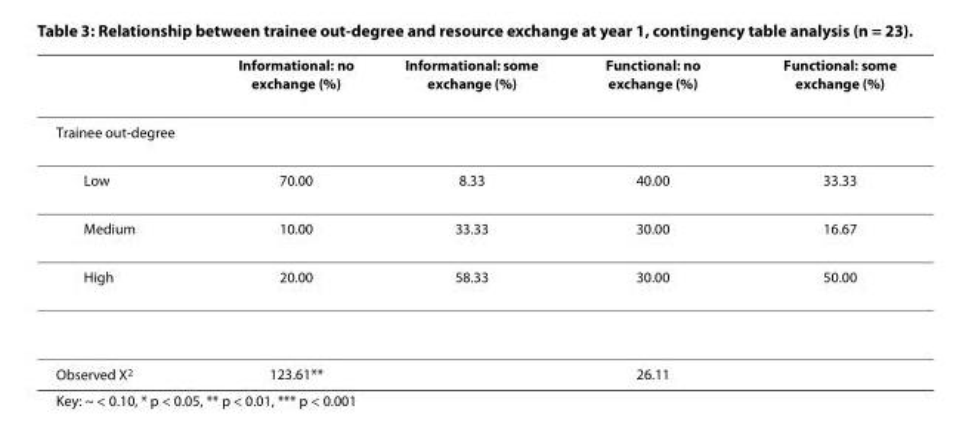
<table><thead><tr><td></td><td>Informational: no exchange (%)</td><td>Informational: some exchange (%)</td><td>Functional: no exchange (%)</td><td>Functional: some exchange (%)</td></tr></thead><tbody><tr><td colspan="5">Trainee out-degree</td></tr><tr><td>Low</td><td>70.00</td><td>8.33</td><td>40.00</td><td>33.33</td></tr><tr><td>Medium</td><td>10.00</td><td>33.33</td><td>30.00</td><td>16.67</td></tr><tr><td>High</td><td>20.00</td><td>58.33</td><td>30.00</td><td>50.00</td></tr><tr><td>Observed X2</td><td>123.61**</td><td></td><td>26.11</td><td></td></tr></tbody></table>